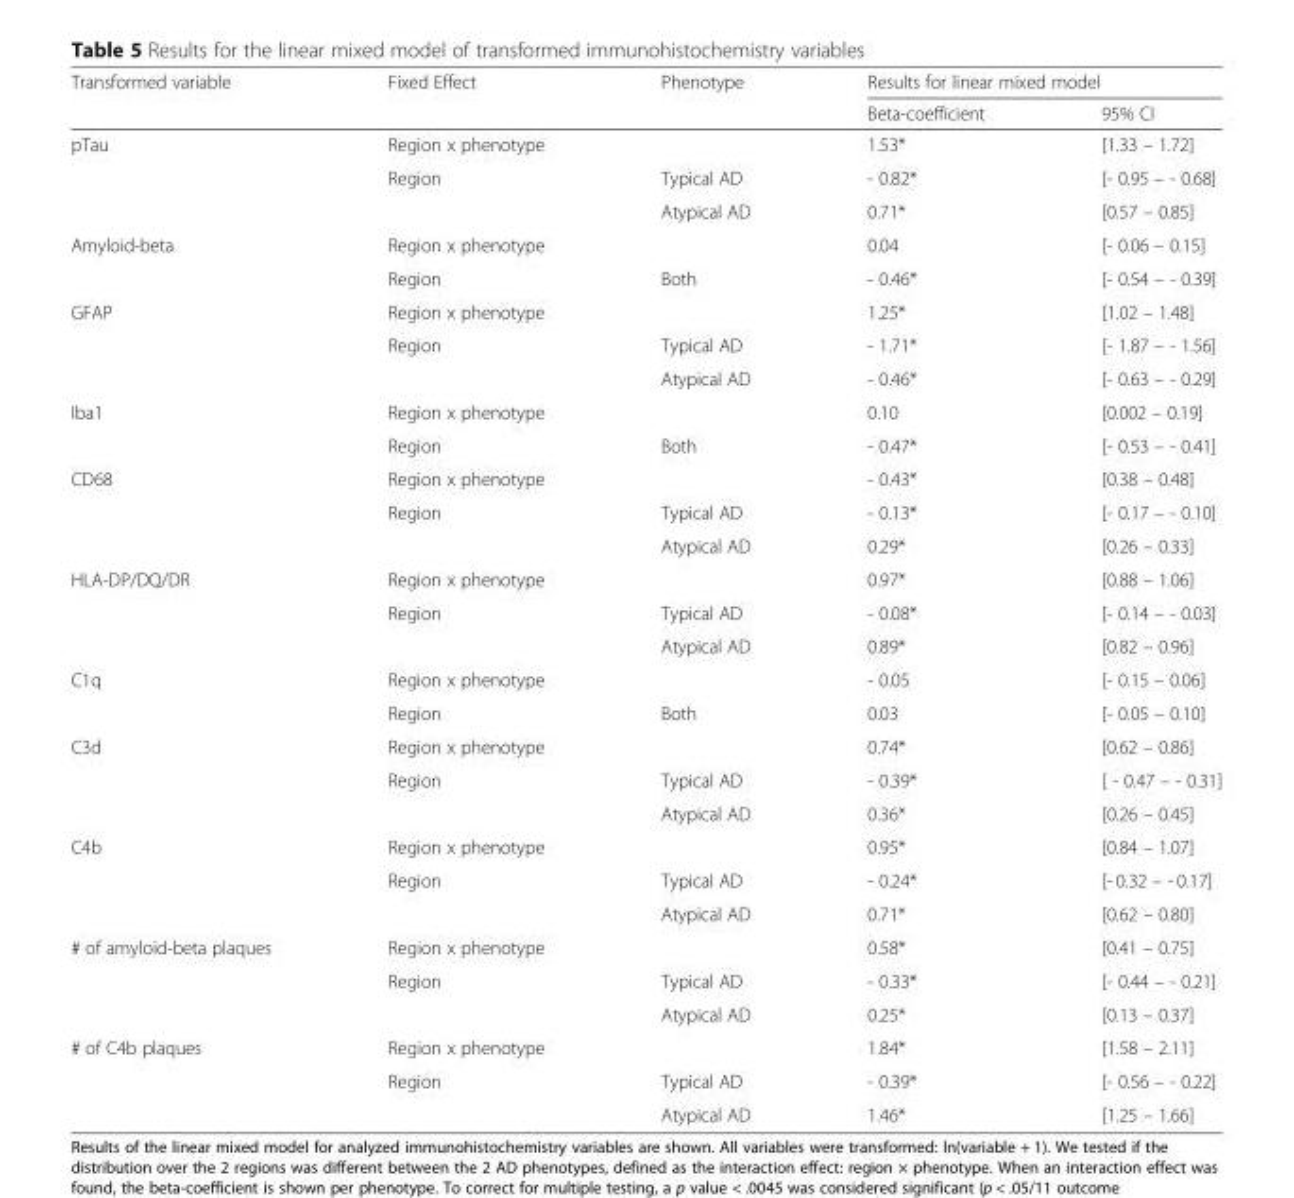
<table><thead><tr><td rowspan="2">Transformed variable</td><td rowspan="2">Fixed Effect</td><td rowspan="2">Phenotype</td><td colspan="2">Results for linear mixed model</td></tr><tr><td>Beta-coefficient</td><td>95% CI</td></tr></thead><tbody><tr><td rowspan="3">pTau</td><td>Region x phenotype</td><td></td><td>1.53*</td><td>[1.33 – 1.72]</td></tr><tr><td rowspan="2">Region</td><td>Typical AD</td><td>- 0.82*</td><td>[- 0.95 – - 0.68]</td></tr><tr><td>Atypical AD</td><td>0.71*</td><td>[0.57 – 0.85]</td></tr><tr><td rowspan="2">Amyloid-beta</td><td>Region x phenotype</td><td></td><td>0.04</td><td>[- 0.06 – 0.15]</td></tr><tr><td>Region</td><td>Both</td><td>- 0.46*</td><td>[- 0.54 – - 0.39]</td></tr><tr><td rowspan="3">GFAP</td><td>Region x phenotype</td><td></td><td>1.25*</td><td>[1.02 – 1.48]</td></tr><tr><td rowspan="2">Region</td><td>Typical AD</td><td>- 1.71*</td><td>[- 1.87 – - 1.56]</td></tr><tr><td>Atypical AD</td><td>- 0.46*</td><td>[- 0.63 – - 0.29]</td></tr><tr><td rowspan="2">Iba1</td><td>Region x phenotype</td><td></td><td>0.10</td><td>[0.002 – 0.19]</td></tr><tr><td>Region</td><td>Both</td><td>- 0.47*</td><td>[- 0.53 – - 0.41]</td></tr><tr><td rowspan="3">CD68</td><td>Region x phenotype</td><td></td><td>- 0.43*</td><td>[0.38 – 0.48]</td></tr><tr><td rowspan="2">Region</td><td>Typical AD</td><td>- 0.13*</td><td>[- 0.17 – - 0.10]</td></tr><tr><td>Atypical AD</td><td>0.29*</td><td>[0.26 – 0.33]</td></tr><tr><td rowspan="3">HLA-DP/DQ/DR</td><td>Region x phenotype</td><td></td><td>0.97*</td><td>[0.88 – 1.06]</td></tr><tr><td rowspan="2">Region</td><td>Typical AD</td><td>- 0.08*</td><td>[- 0.14 – - 0.03]</td></tr><tr><td>Atypical AD</td><td>0.89*</td><td>[0.82 – 0.96]</td></tr><tr><td rowspan="2">C1q</td><td>Region x phenotype</td><td></td><td>- 0.05</td><td>[- 0.15 – 0.06]</td></tr><tr><td>Region</td><td>Both</td><td>0.03</td><td>[- 0.05 – 0.10]</td></tr><tr><td rowspan="3">C3d</td><td>Region x phenotype</td><td></td><td>0.74*</td><td>[0.62 – 0.86]</td></tr><tr><td rowspan="2">Region</td><td>Typical AD</td><td>- 0.39*</td><td>[ - 0.47 – - 0.31]</td></tr><tr><td>Atypical AD</td><td>0.36*</td><td>[0.26 – 0.45]</td></tr><tr><td rowspan="3">C4b</td><td>Region x phenotype</td><td></td><td>0.95*</td><td>[0.84 – 1.07]</td></tr><tr><td rowspan="2">Region</td><td>Typical AD</td><td>- 0.24*</td><td>[- 0.32 – - 0.17]</td></tr><tr><td>Atypical AD</td><td>0.71*</td><td>[0.62 – 0.80]</td></tr><tr><td rowspan="3"># of amyloid-beta plaques</td><td>Region x phenotype</td><td></td><td>0.58*</td><td>[0.41 – 0.75]</td></tr><tr><td rowspan="2">Region</td><td>Typical AD</td><td>- 0.33*</td><td>[- 0.44 – - 0.21]</td></tr><tr><td>Atypical AD</td><td>0.25*</td><td>[0.13 – 0.37]</td></tr><tr><td rowspan="3"># of C4b plaques</td><td>Region x phenotype</td><td></td><td>1.84*</td><td>[1.58 – 2.11]</td></tr><tr><td rowspan="2">Region</td><td>Typical AD</td><td>- 0.39*</td><td>[- 0.56 – - 0.22]</td></tr><tr><td>Atypical AD</td><td>1.46*</td><td>[1.25 – 1.66]</td></tr></tbody></table>